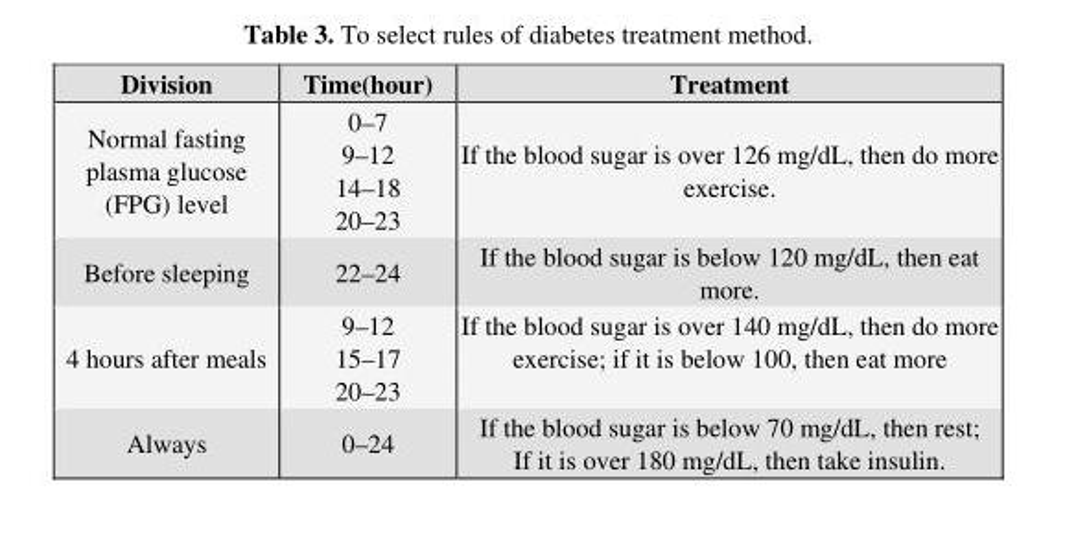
<table><thead><tr><td>Division</td><td>Time(hour)</td><td>Treatment</td></tr></thead><tbody><tr><td>Normal fasting plasma glucose (FPG) level</td><td>0–7 9–12 14–18 20–23</td><td>If the blood sugar is over 126 mg/dL, then do more exercise.</td></tr><tr><td>Before sleeping</td><td>22–24</td><td>If the blood sugar is below 120 mg/dL, then eat more.</td></tr><tr><td>4 hours after meals</td><td>9–12 15–17 20–23</td><td>If the blood sugar is over 140 mg/dL, then do more exercise; if it is below 100, then eat more</td></tr><tr><td>Always</td><td>0–24</td><td>If the blood sugar is below 70 mg/dL, then rest; If it is over 180 mg/dL, then take insulin.</td></tr></tbody></table>